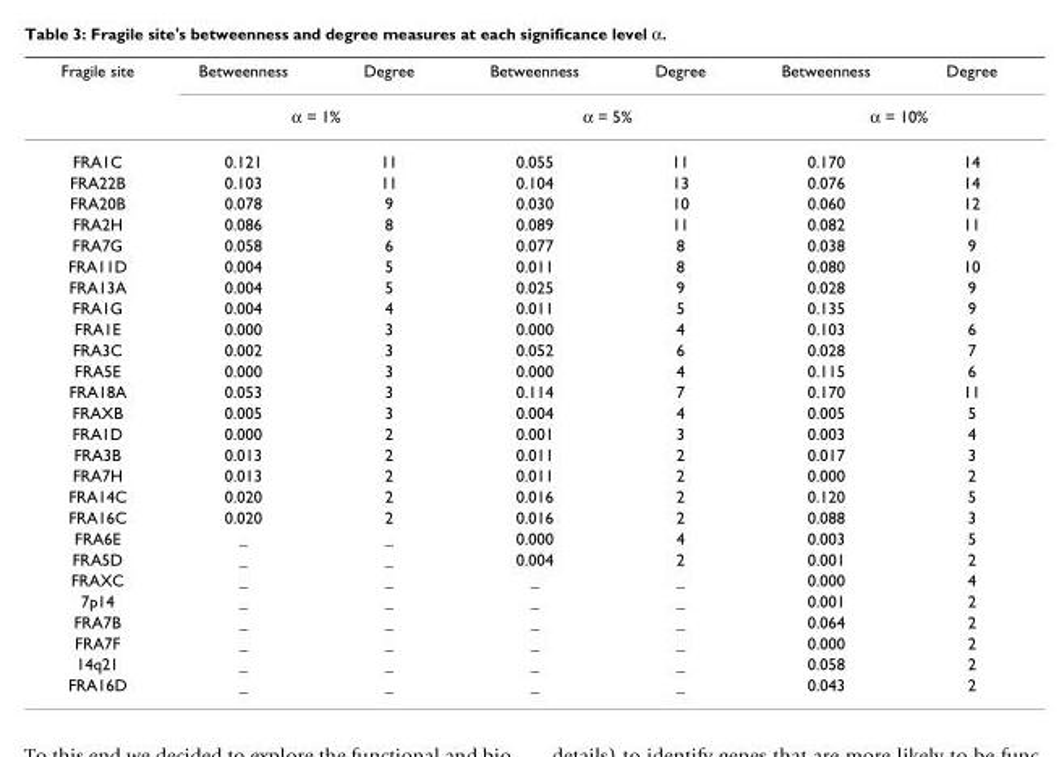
<table><thead><tr><td rowspan="2">Fragile site</td><td>Betweenness</td><td>Degree</td><td>Betweenness</td><td>Degree</td><td>Betweenness</td><td>Degree</td></tr><tr><td colspan="2">α = 1%</td><td colspan="2">α = 5%</td><td colspan="2">α = 10%</td></tr></thead><tbody><tr><td>FRA1C</td><td>0.121</td><td>11</td><td>0.055</td><td>11</td><td>0.170</td><td>14</td></tr><tr><td>FRA22B</td><td>0.103</td><td>11</td><td>0.104</td><td>13</td><td>0.076</td><td>14</td></tr><tr><td>FRA20B</td><td>0.078</td><td>9</td><td>0.030</td><td>10</td><td>0.060</td><td>12</td></tr><tr><td>FRA2H</td><td>0.086</td><td>8</td><td>0.089</td><td>11</td><td>0.082</td><td>11</td></tr><tr><td>FRA7G</td><td>0.058</td><td>6</td><td>0.077</td><td>8</td><td>0.038</td><td>9</td></tr><tr><td>FRA11D</td><td>0.004</td><td>5</td><td>0.011</td><td>8</td><td>0.080</td><td>10</td></tr><tr><td>FRA13A</td><td>0.004</td><td>5</td><td>0.025</td><td>9</td><td>0.028</td><td>9</td></tr><tr><td>FRA1G</td><td>0.004</td><td>4</td><td>0.011</td><td>5</td><td>0.135</td><td>9</td></tr><tr><td>FRA1E</td><td>0.000</td><td>3</td><td>0.000</td><td>4</td><td>0.103</td><td>6</td></tr><tr><td>FRA3C</td><td>0.002</td><td>3</td><td>0.052</td><td>6</td><td>0.028</td><td>7</td></tr><tr><td>FRA5E</td><td>0.000</td><td>3</td><td>0.000</td><td>4</td><td>0.115</td><td>6</td></tr><tr><td>FRA18A</td><td>0.053</td><td>3</td><td>0.114</td><td>7</td><td>0.170</td><td>11</td></tr><tr><td>FRAXB</td><td>0.005</td><td>3</td><td>0.004</td><td>4</td><td>0.005</td><td>5</td></tr><tr><td>FRA1D</td><td>0.000</td><td>2</td><td>0.001</td><td>3</td><td>0.003</td><td>4</td></tr><tr><td>FRA3B</td><td>0.013</td><td>2</td><td>0.011</td><td>2</td><td>0.017</td><td>3</td></tr><tr><td>FRA7H</td><td>0.013</td><td>2</td><td>0.011</td><td>2</td><td>0.000</td><td>2</td></tr><tr><td>FRA14C</td><td>0.020</td><td>2</td><td>0.016</td><td>2</td><td>0.120</td><td>5</td></tr><tr><td>FRA16C</td><td>0.020</td><td>2</td><td>0.016</td><td>2</td><td>0.088</td><td>3</td></tr><tr><td>FRA6E</td><td>_</td><td>_</td><td>0.000</td><td>4</td><td>0.003</td><td>5</td></tr><tr><td>FRA5D</td><td>_</td><td>_</td><td>0.004</td><td>2</td><td>0.001</td><td>2</td></tr><tr><td>FRAXC</td><td>_</td><td>_</td><td>_</td><td>_</td><td>0.000</td><td>4</td></tr><tr><td>7p14</td><td>_</td><td>_</td><td>_</td><td>_</td><td>0.001</td><td>2</td></tr><tr><td>FRA7B</td><td>_</td><td>_</td><td>_</td><td>_</td><td>0.064</td><td>2</td></tr><tr><td>FRA7F</td><td>_</td><td>_</td><td>_</td><td>_</td><td>0.000</td><td>2</td></tr><tr><td>14q21</td><td>_</td><td>_</td><td>_</td><td>_</td><td>0.058</td><td>2</td></tr><tr><td>FRA16D</td><td>_</td><td>_</td><td>_</td><td>_</td><td>0.043</td><td>2</td></tr></tbody></table>